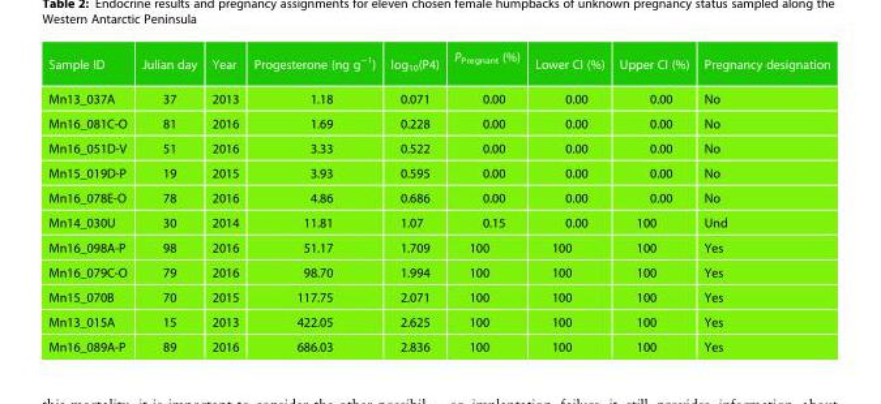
<table><thead><tr><td>Sample ID</td><td>Julian day</td><td>Year</td><td>Progesterone (ng g<sup>−1</sup>)</td><td>log<sub>10</sub>(P4)</td><td>P<sub>Pregnant</sub> (%)</td><td>Lower CI (%)</td><td>Upper CI (%)</td><td>Pregnancy designation</td></tr></thead><tbody><tr><td>Mn13_037A</td><td>37</td><td>2013</td><td>1.18</td><td>0.071</td><td>0.00</td><td>0.00</td><td>0.00</td><td>No</td></tr><tr><td>Mn16_081C-O</td><td>81</td><td>2016</td><td>1.69</td><td>0.228</td><td>0.00</td><td>0.00</td><td>0.00</td><td>No</td></tr><tr><td>Mn16_051D-V</td><td>51</td><td>2016</td><td>3.33</td><td>0.522</td><td>0.00</td><td>0.00</td><td>0.00</td><td>No</td></tr><tr><td>Mn15_019D-P</td><td>19</td><td>2015</td><td>3.93</td><td>0.595</td><td>0.00</td><td>0.00</td><td>0.00</td><td>No</td></tr><tr><td>Mn16_078E-O</td><td>78</td><td>2016</td><td>4.86</td><td>0.686</td><td>0.00</td><td>0.00</td><td>0.00</td><td>No</td></tr><tr><td>Mn14_030U</td><td>30</td><td>2014</td><td>11.81</td><td>1.07</td><td>0.15</td><td>0.00</td><td>100</td><td>Und</td></tr><tr><td>Mn16_098A-P</td><td>98</td><td>2016</td><td>51.17</td><td>1.709</td><td>100</td><td>100</td><td>100</td><td>Yes</td></tr><tr><td>Mn16_079C-O</td><td>79</td><td>2016</td><td>98.70</td><td>1.994</td><td>100</td><td>100</td><td>100</td><td>Yes</td></tr><tr><td>Mn15_070B</td><td>70</td><td>2015</td><td>117.75</td><td>2.071</td><td>100</td><td>100</td><td>100</td><td>Yes</td></tr><tr><td>Mn13_015A</td><td>15</td><td>2013</td><td>422.05</td><td>2.625</td><td>100</td><td>100</td><td>100</td><td>Yes</td></tr><tr><td>Mn16_089A-P</td><td>89</td><td>2016</td><td>686.03</td><td>2.836</td><td>100</td><td>100</td><td>100</td><td>Yes</td></tr></tbody></table>